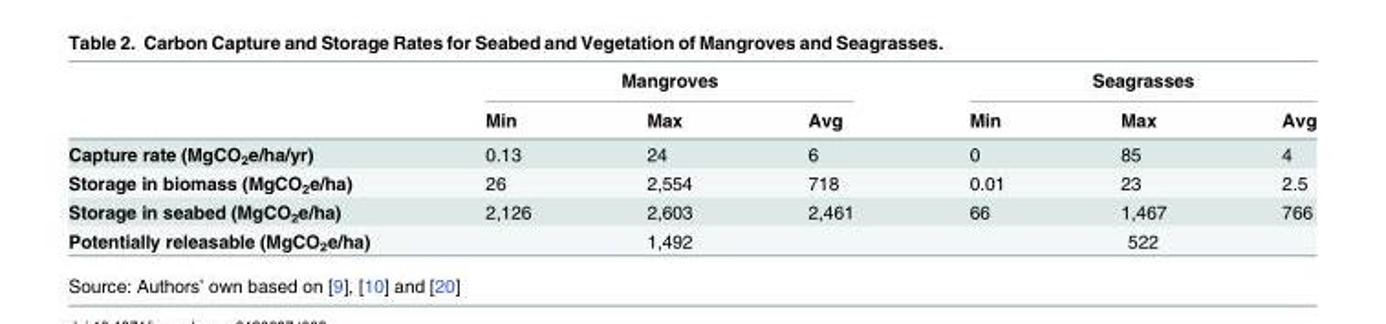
<table><thead><tr><td rowspan="2"></td><td colspan="3">Mangroves</td><td colspan="3">Seagrasses</td></tr><tr><td>Min</td><td>Max</td><td>Avg</td><td>Min</td><td>Max</td><td>Avg</td></tr></thead><tbody><tr><td>Capture rate (MgCO<sub>2</sub>e/ha/yr)</td><td>0.13</td><td>24</td><td>6</td><td>0</td><td>85</td><td>4</td></tr><tr><td>Storage in biomass (MgCO<sub>2</sub>e/ha)</td><td>26</td><td>2,554</td><td>718</td><td>0.01</td><td>23</td><td>2.5</td></tr><tr><td>Storage in seabed (MgCO<sub>2</sub>e/ha)</td><td>2,126</td><td>2,603</td><td>2,461</td><td>66</td><td>1,467</td><td>766</td></tr><tr><td>Potentially releasable (MgCO<sub>2</sub>e/ha)</td><td colspan="3">1,492</td><td colspan="3">522</td></tr></tbody></table>